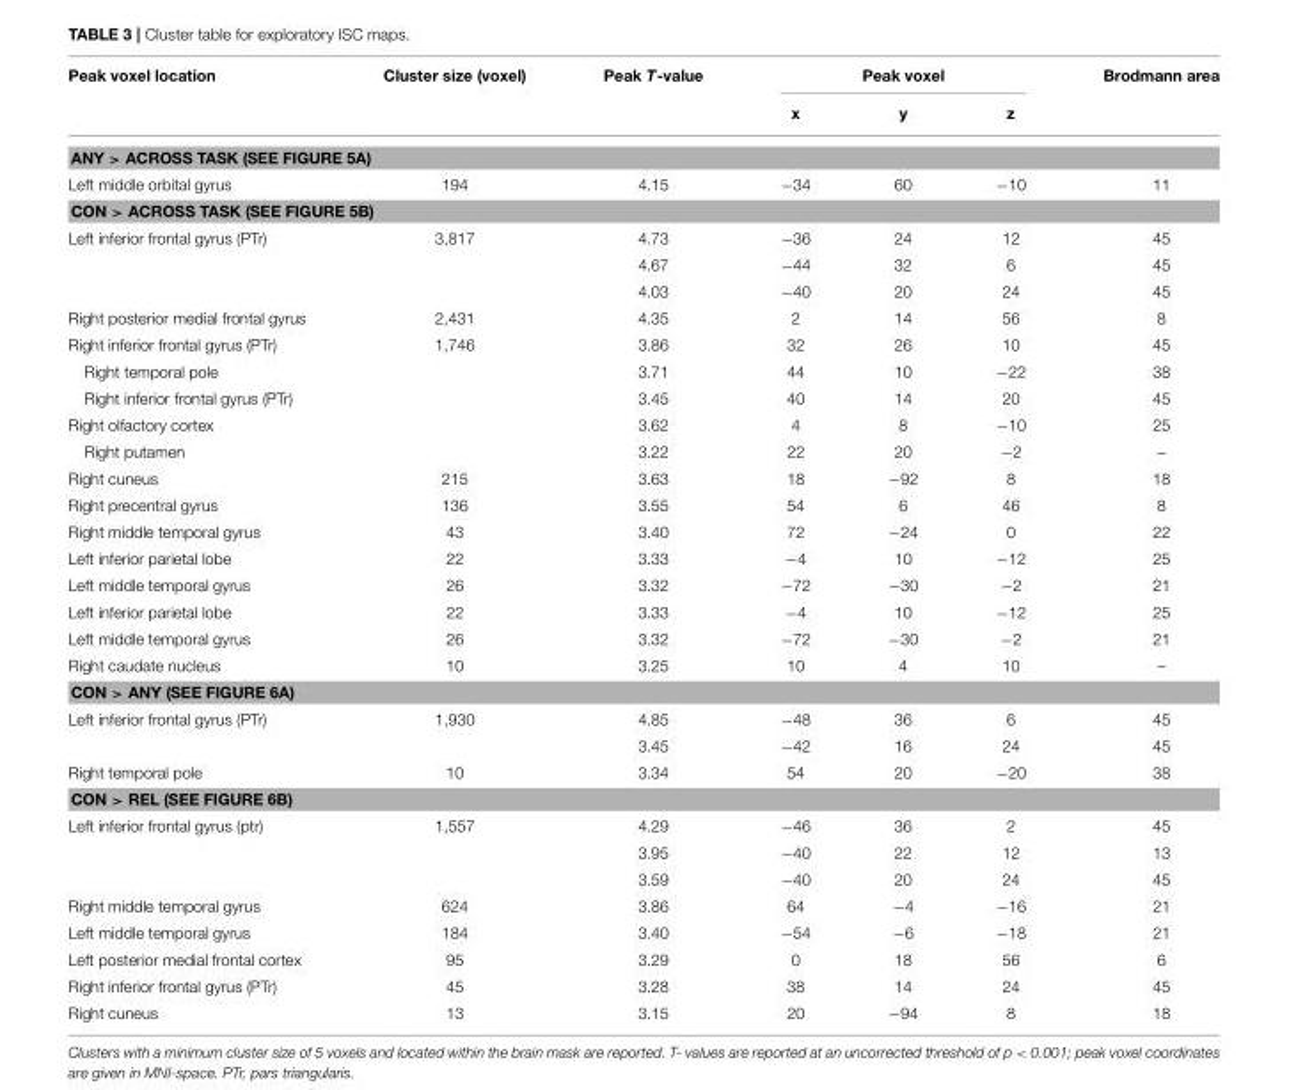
<table><thead><tr><td rowspan="2">Peak voxel location</td><td rowspan="2">Cluster size (voxel)</td><td rowspan="2">Peak T-value</td><td colspan="3">Peak voxel</td><td rowspan="2">Brodmann area</td></tr><tr><td>x</td><td>y</td><td>z</td></tr></thead><tbody><tr><td colspan="7">ANY &gt; ACROSS TASK (SEE FIGURE 5A)</td></tr><tr><td>Left middle orbital gyrus</td><td>194</td><td>4.15</td><td>−34</td><td>60</td><td>−10</td><td>11</td></tr><tr><td colspan="7">CON &gt; ACROSS TASK (SEE FIGURE 5B)</td></tr><tr><td rowspan="3">Left inferior frontal gyrus (PTr)</td><td>3,817</td><td>4.73</td><td>−36</td><td>24</td><td>12</td><td>45</td></tr><tr><td></td><td>4.67</td><td>−44</td><td>32</td><td>6</td><td>45</td></tr><tr><td></td><td>4.03</td><td>−40</td><td>20</td><td>24</td><td>45</td></tr><tr><td>Right posterior medial frontal gyrus</td><td>2,431</td><td>4.35</td><td>2</td><td>14</td><td>56</td><td>8</td></tr><tr><td>Right inferior frontal gyrus (PTr)</td><td>1,746</td><td>3.86</td><td>32</td><td>26</td><td>10</td><td>45</td></tr><tr><td>Right temporal pole</td><td></td><td>3.71</td><td>44</td><td>10</td><td>−22</td><td>38</td></tr><tr><td>Right inferior frontal gyrus (PTr)</td><td></td><td>3.45</td><td>40</td><td>14</td><td>20</td><td>45</td></tr><tr><td>Right olfactory cortex</td><td></td><td>3.62</td><td>4</td><td>8</td><td>−10</td><td>25</td></tr><tr><td>Right putamen</td><td></td><td>3.22</td><td>22</td><td>20</td><td>−2</td><td>–</td></tr><tr><td>Right cuneus</td><td>215</td><td>3.63</td><td>18</td><td>−92</td><td>8</td><td>18</td></tr><tr><td>Right precentral gyrus</td><td>136</td><td>3.55</td><td>54</td><td>6</td><td>46</td><td>8</td></tr><tr><td>Right middle temporal gyrus</td><td>43</td><td>3.40</td><td>72</td><td>−24</td><td>0</td><td>22</td></tr><tr><td>Left inferior parietal lobe</td><td>22</td><td>3.33</td><td>−4</td><td>10</td><td>−12</td><td>25</td></tr><tr><td>Left middle temporal gyrus</td><td>26</td><td>3.32</td><td>−72</td><td>−30</td><td>−2</td><td>21</td></tr><tr><td>Left inferior parietal lobe</td><td>22</td><td>3.33</td><td>−4</td><td>10</td><td>−12</td><td>25</td></tr><tr><td>Left middle temporal gyrus</td><td>26</td><td>3.32</td><td>−72</td><td>−30</td><td>−2</td><td>21</td></tr><tr><td>Right caudate nucleus</td><td>10</td><td>3.25</td><td>10</td><td>4</td><td>10</td><td>–</td></tr><tr><td colspan="7">CON &gt; ANY (SEE FIGURE 6A)</td></tr><tr><td rowspan="2">Left inferior frontal gyrus (PTr)</td><td>1,930</td><td>4.85</td><td>−48</td><td>36</td><td>6</td><td>45</td></tr><tr><td></td><td>3.45</td><td>−42</td><td>16</td><td>24</td><td>45</td></tr><tr><td>Right temporal pole</td><td>10</td><td>3.34</td><td>54</td><td>20</td><td>−20</td><td>38</td></tr><tr><td colspan="7">CON &gt; REL (SEE FIGURE 6B)</td></tr><tr><td rowspan="3">Left inferior frontal gyrus (ptr)</td><td>1,557</td><td>4.29</td><td>−46</td><td>36</td><td>2</td><td>45</td></tr><tr><td></td><td>3.95</td><td>−40</td><td>22</td><td>12</td><td>13</td></tr><tr><td></td><td>3.59</td><td>−40</td><td>20</td><td>24</td><td>45</td></tr><tr><td>Right middle temporal gyrus</td><td>624</td><td>3.86</td><td>64</td><td>−4</td><td>−16</td><td>21</td></tr><tr><td>Left middle temporal gyrus</td><td>184</td><td>3.40</td><td>−54</td><td>−6</td><td>−18</td><td>21</td></tr><tr><td>Left posterior medial frontal cortex</td><td>95</td><td>3.29</td><td>0</td><td>18</td><td>56</td><td>6</td></tr><tr><td>Right inferior frontal gyrus (PTr)</td><td>45</td><td>3.28</td><td>38</td><td>14</td><td>24</td><td>45</td></tr><tr><td>Right cuneus</td><td>13</td><td>3.15</td><td>20</td><td>−94</td><td>8</td><td>18</td></tr></tbody></table>